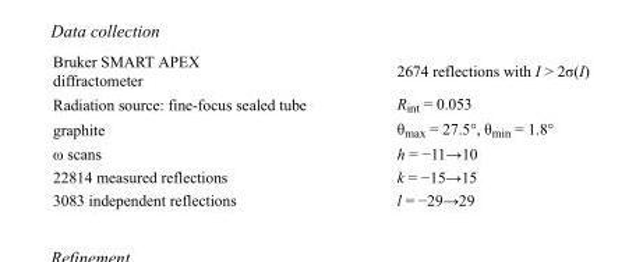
<table><tbody><tr><td>Bruker SMART APEX diffractometer</td><td>2674 reflections with I &gt; 2σ(I)</td></tr><tr><td>Radiation source: fine-focus sealed tube</td><td>R<sub>int</sub> = 0.053</td></tr><tr><td>graphite</td><td>θ<sub>max</sub> = 27.5°, θ<sub>min</sub> = 1.8°</td></tr><tr><td>ω scans</td><td>h = −11→10</td></tr><tr><td>22814 measured reflections</td><td>k = −15→15</td></tr><tr><td>3083 independent reflections</td><td>l = −29→29</td></tr></tbody></table>